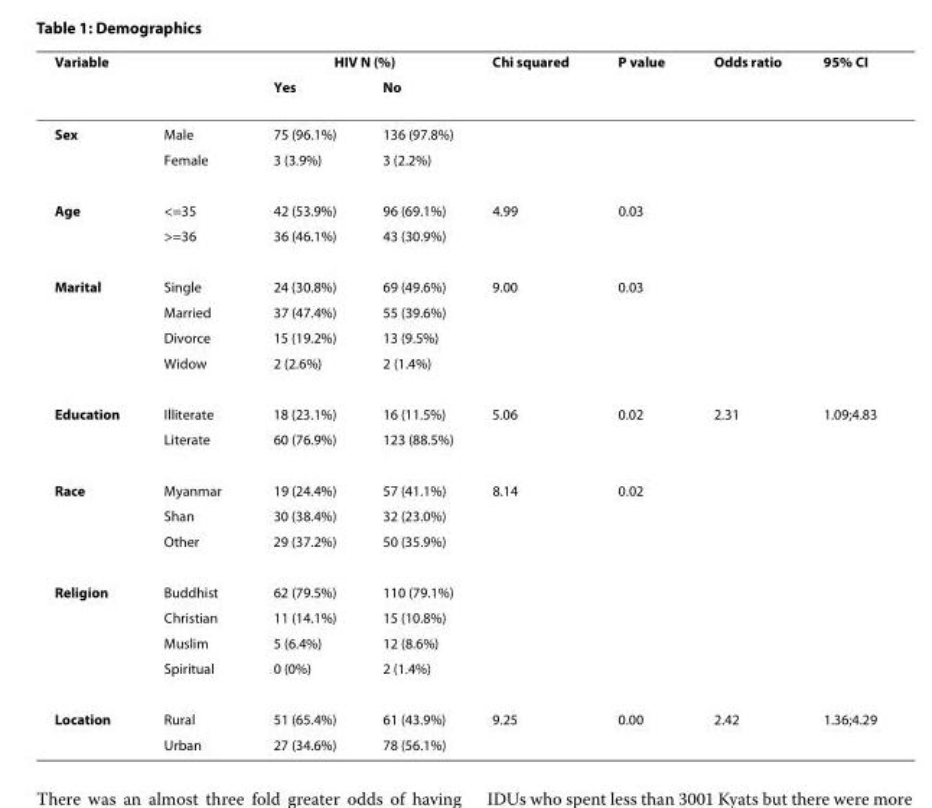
<table><thead><tr><td rowspan="2">Variable</td><td rowspan="2"></td><td colspan="2">HIV N (%)</td><td rowspan="2">Chi squared</td><td rowspan="2">P value</td><td rowspan="2">Odds ratio</td><td rowspan="2">95% CI</td></tr><tr><td>Yes</td><td>No</td></tr></thead><tbody><tr><td rowspan="2">Sex</td><td>Male</td><td>75 (96.1%)</td><td>136 (97.8%)</td><td></td><td></td><td></td><td></td></tr><tr><td>Female</td><td>3 (3.9%)</td><td>3 (2.2%)</td><td></td><td></td><td></td><td></td></tr><tr><td rowspan="2">Age</td><td>&lt;=35</td><td>42 (53.9%)</td><td>96 (69.1%)</td><td>4.99</td><td>0.03</td><td></td><td></td></tr><tr><td>&gt;=36</td><td>36 (46.1%)</td><td>43 (30.9%)</td><td></td><td></td><td></td><td></td></tr><tr><td rowspan="4">Marital</td><td>Single</td><td>24 (30.8%)</td><td>69 (49.6%)</td><td>9.00</td><td>0.03</td><td></td><td></td></tr><tr><td>Married</td><td>37 (47.4%)</td><td>55 (39.6%)</td><td></td><td></td><td></td><td></td></tr><tr><td>Divorce</td><td>15 (19.2%)</td><td>13 (9.5%)</td><td></td><td></td><td></td><td></td></tr><tr><td>Widow</td><td>2 (2.6%)</td><td>2 (1.4%)</td><td></td><td></td><td></td><td></td></tr><tr><td rowspan="2">Education</td><td>Illiterate</td><td>18 (23.1%)</td><td>16 (11.5%)</td><td>5.06</td><td>0.02</td><td>2.31</td><td>1.09;4.83</td></tr><tr><td>Literate</td><td>60 (76.9%)</td><td>123 (88.5%)</td><td></td><td></td><td></td><td></td></tr><tr><td rowspan="3">Race</td><td>Myanmar</td><td>19 (24.4%)</td><td>57 (41.1%)</td><td>8.14</td><td>0.02</td><td></td><td></td></tr><tr><td>Shan</td><td>30 (38.4%)</td><td>32 (23.0%)</td><td></td><td></td><td></td><td></td></tr><tr><td>Other</td><td>29 (37.2%)</td><td>50 (35.9%)</td><td></td><td></td><td></td><td></td></tr><tr><td rowspan="4">Religion</td><td>Buddhist</td><td>62 (79.5%)</td><td>110 (79.1%)</td><td></td><td></td><td></td><td></td></tr><tr><td>Christian</td><td>11 (14.1%)</td><td>15 (10.8%)</td><td></td><td></td><td></td><td></td></tr><tr><td>Muslim</td><td>5 (6.4%)</td><td>12 (8.6%)</td><td></td><td></td><td></td><td></td></tr><tr><td>Spiritual</td><td>0 (0%)</td><td>2 (1.4%)</td><td></td><td></td><td></td><td></td></tr><tr><td rowspan="2">Location</td><td>Rural</td><td>51 (65.4%)</td><td>61 (43.9%)</td><td>9.25</td><td>0.00</td><td>2.42</td><td>1.36;4.29</td></tr><tr><td>Urban</td><td>27 (34.6%)</td><td>78 (56.1%)</td><td></td><td></td><td></td><td></td></tr></tbody></table>